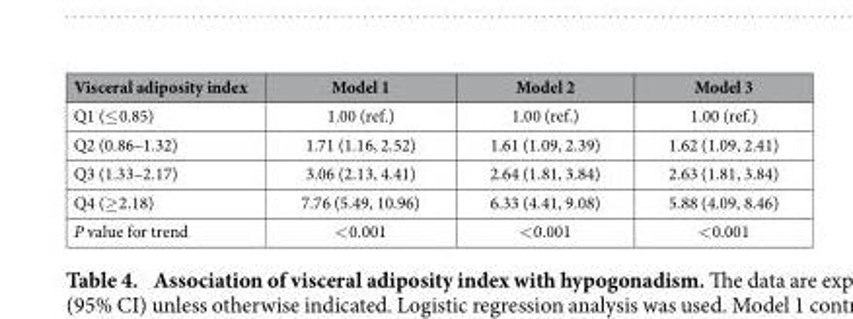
<table><thead><tr><td>Visceral adiposity index</td><td>Model 1</td><td>Model 2</td><td>Model 3</td></tr></thead><tbody><tr><td>Q1 (≤ 0.85)</td><td>1.00 (ref.)</td><td>1.00 (ref.)</td><td>1.00 (ref.)</td></tr><tr><td>Q2 (0.86–1.32)</td><td>1.71 (1.16, 2.52)</td><td>1.61 (1.09, 2.39)</td><td>1.62 (1.09, 2.41)</td></tr><tr><td>Q3 (1.33–2.17)</td><td>3.06 (2.13, 4.41)</td><td>2.64 (1.81, 3.84)</td><td>2.63 (1.81, 3.84)</td></tr><tr><td>Q4 (≥ 2.18)</td><td>7.76 (5.49, 10.96)</td><td>6.33 (4.41, 9.08)</td><td>5.88 (4.09, 8.46)</td></tr><tr><td>P value for trend</td><td>&lt; 0.001</td><td>&lt; 0.001</td><td>&lt; 0.001</td></tr></tbody></table>